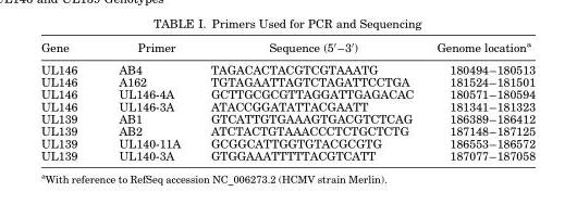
<table><thead><tr><td>Gene</td><td>Primer</td><td>Sequence (5′–3′)</td><td>Genome location<sup>a</sup></td></tr></thead><tbody><tr><td>UL146</td><td>AB4</td><td>TAGACACTACGTCGTAAATG</td><td>180494–180513</td></tr><tr><td>UL146</td><td>A162</td><td>TGTAGAATTAGTCTAGATTCCTGA</td><td>181524–181501</td></tr><tr><td>UL146</td><td>UL146-4A</td><td>GCTTGCGCGTTAGGATTGAGACAC</td><td>180571–180594</td></tr><tr><td>UL146</td><td>UL146-3A</td><td>ATACCGGATATTACGAATT</td><td>181341–181323</td></tr><tr><td>UL139</td><td>AB1</td><td>GTCATTGTGAAAGTGACGTCTCAG</td><td>186389–186412</td></tr><tr><td>UL139</td><td>AB2</td><td>ATCTACTGTAAACCCTCTGCTCTG</td><td>187148–187125</td></tr><tr><td>UL139</td><td>UL140-11A</td><td>GCGGCATTGGTGTACGCGTG</td><td>186553–186572</td></tr><tr><td>UL139</td><td>UL140-3A</td><td>GTGGAAATTTTTACGTCATT</td><td>187077–187058</td></tr></tbody></table>